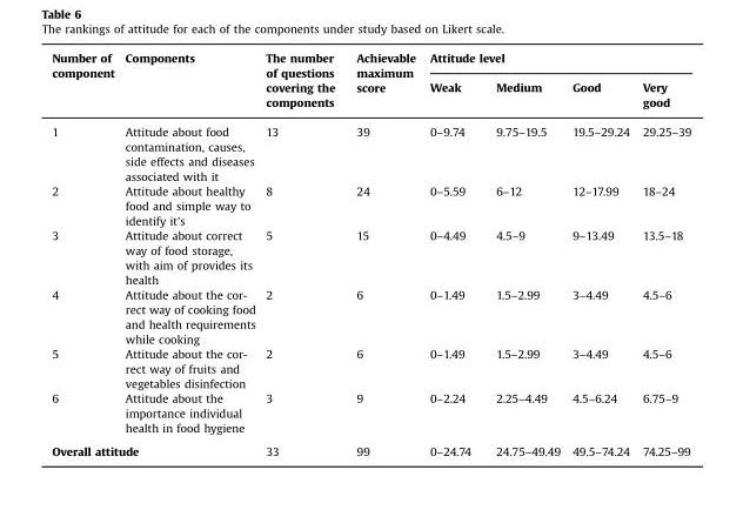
<table><thead><tr><td rowspan="2">Number of component</td><td rowspan="2">Components</td><td rowspan="2">The number of questions covering the components</td><td rowspan="2">Achievable maximum score</td><td colspan="4">Attitude level</td></tr><tr><td>Weak</td><td>Medium</td><td>Good</td><td>Very good</td></tr></thead><tbody><tr><td>1</td><td>Attitude about food contamination, causes, side effects and diseases associated with it</td><td>13</td><td>39</td><td>0–9.74</td><td>9.75–19.5</td><td>19.5–29.24</td><td>29.25–39</td></tr><tr><td>2</td><td>Attitude about healthy food and simple way to identify it’s</td><td>8</td><td>24</td><td>0–5.59</td><td>6–12</td><td>12–17.99</td><td>18–24</td></tr><tr><td>3</td><td>Attitude about correct way of food storage, with aim of provides its health</td><td>5</td><td>15</td><td>0–4.49</td><td>4.5–9</td><td>9–13.49</td><td>13.5–18</td></tr><tr><td>4</td><td>Attitude about the cor- rect way of cooking food and health requirements while cooking</td><td>2</td><td>6</td><td>0–1.49</td><td>1.5–2.99</td><td>3–4.49</td><td>4.5–6</td></tr><tr><td>5</td><td>Attitude about the cor- rect way of fruits and vegetables disinfection</td><td>2</td><td>6</td><td>0–1.49</td><td>1.5–2.99</td><td>3–4.49</td><td>4.5–6</td></tr><tr><td>6</td><td>Attitude about the importance individual health in food hygiene</td><td>3</td><td>9</td><td>0–2.24</td><td>2.25–4.49</td><td>4.5–6.24</td><td>6.75–9</td></tr><tr><td colspan="2">Overall attitude</td><td>33</td><td>99</td><td>0–24.74</td><td>24.75–49.49</td><td>49.5–74.24</td><td>74.25–99</td></tr></tbody></table>